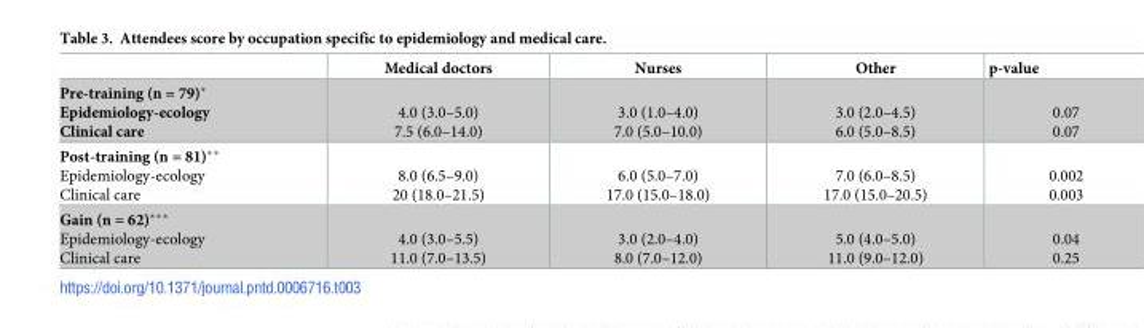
<table><thead><tr><td></td><td>Medical doctors</td><td>Nurses</td><td>Other</td><td>p-value</td></tr></thead><tbody><tr><td>Pre-training (n = 79)* Epidemiology-ecology Clinical care</td><td>4.0 (3.0–5.0) 7.5 (6.0–14.0)</td><td>3.0 (1.0–4.0) 7.0 (5.0–10.0)</td><td>3.0 (2.0–4.5) 6.0 (5.0–8.5)</td><td>0.07 0.07</td></tr><tr><td>Post-training (n = 81)** Epidemiology-ecology Clinical care</td><td>8.0 (6.5–9.0) 20 (18.0–21.5)</td><td>6.0 (5.0–7.0) 17.0 (15.0–18.0)</td><td>7.0 (6.0–8.5) 17.0 (15.0–20.5)</td><td>0.002 0.003</td></tr><tr><td>Gain (n = 62)*** Epidemiology-ecology Clinical care</td><td>4.0 (3.0–5.5) 11.0 (7.0–13.5)</td><td>3.0 (2.0–4.0) 8.0 (7.0–12.0)</td><td>5.0 (4.0–5.0) 11.0 (9.0–12.0)</td><td>0.04 0.25</td></tr></tbody></table>